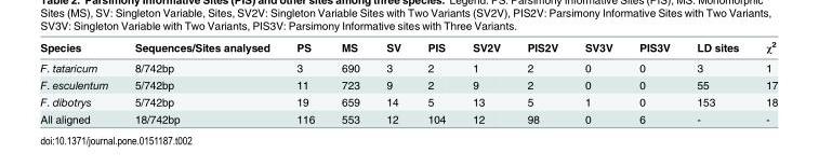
<table><thead><tr><td>Species</td><td>Sequences/Sites analysed</td><td>PS</td><td>MS</td><td>SV</td><td>PIS</td><td>SV2V</td><td>PIS2V</td><td>SV3V</td><td>PIS3V</td><td>LD sites</td><td>χ<sup>2</sup></td></tr></thead><tbody><tr><td>F. tataricum</td><td>8/742bp</td><td>3</td><td>690</td><td>3</td><td>2</td><td>1</td><td>2</td><td>0</td><td>0</td><td>3</td><td>1</td></tr><tr><td>F. esculentum</td><td>5/742bp</td><td>11</td><td>723</td><td>9</td><td>2</td><td>9</td><td>2</td><td>0</td><td>0</td><td>55</td><td>17</td></tr><tr><td>F. dibotrys</td><td>5/742bp</td><td>19</td><td>659</td><td>14</td><td>5</td><td>13</td><td>5</td><td>1</td><td>0</td><td>153</td><td>18</td></tr><tr><td>All aligned</td><td>18/742bp</td><td>116</td><td>553</td><td>12</td><td>104</td><td>12</td><td>98</td><td>0</td><td>6</td><td>-</td><td>-</td></tr></tbody></table>